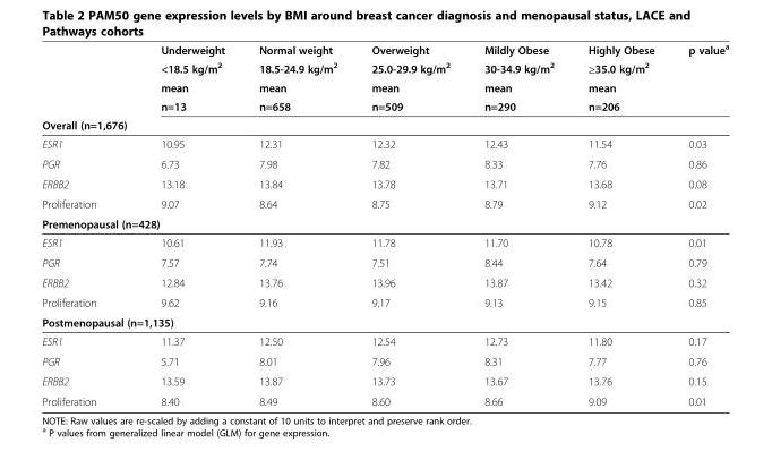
<table><thead><tr><td rowspan="4"></td><td rowspan="4">Underweight &lt;18.5 kg/m<sup>2</sup> mean n=13</td><td rowspan="4">Normal weight 18.5-24.9 kg/m<sup>2</sup> mean n=658</td><td rowspan="4">Overweight 25.0-29.9 kg/m<sup>2</sup> mean n=509</td><td rowspan="4">Mildly Obese 30-34.9 kg/m<sup>2</sup> mean n=290</td><td rowspan="4">Highly Obese ≥35.0 kg/m<sup>2</sup> mean n=206</td><td rowspan="4">p value<sup>a</sup></td></tr><tr></tr><tr></tr><tr></tr></thead><tbody><tr><td colspan="7">Overall (n=1,676)</td></tr><tr><td>ESR1</td><td>10.95</td><td>12.31</td><td>12.32</td><td>12.43</td><td>11.54</td><td>0.03</td></tr><tr><td>PGR</td><td>6.73</td><td>7.98</td><td>7.82</td><td>8.33</td><td>7.76</td><td>0.86</td></tr><tr><td>ERBB2</td><td>13.18</td><td>13.84</td><td>13.78</td><td>13.71</td><td>13.68</td><td>0.08</td></tr><tr><td>Proliferation</td><td>9.07</td><td>8.64</td><td>8.75</td><td>8.79</td><td>9.12</td><td>0.02</td></tr><tr><td colspan="7">Premenopausal (n=428)</td></tr><tr><td>ESR1</td><td>10.61</td><td>11.93</td><td>11.78</td><td>11.70</td><td>10.78</td><td>0.01</td></tr><tr><td>PGR</td><td>7.57</td><td>7.74</td><td>7.51</td><td>8.44</td><td>7.64</td><td>0.79</td></tr><tr><td>ERBB2</td><td>12.84</td><td>13.76</td><td>13.96</td><td>13.87</td><td>13.42</td><td>0.32</td></tr><tr><td>Proliferation</td><td>9.62</td><td>9.16</td><td>9.17</td><td>9.13</td><td>9.15</td><td>0.85</td></tr><tr><td colspan="7">Postmenopausal (n=1,135)</td></tr><tr><td>ESR1</td><td>11.37</td><td>12.50</td><td>12.54</td><td>12.73</td><td>11.80</td><td>0.17</td></tr><tr><td>PGR</td><td>5.71</td><td>8.01</td><td>7.96</td><td>8.31</td><td>7.77</td><td>0.76</td></tr><tr><td>ERBB2</td><td>13.59</td><td>13.87</td><td>13.73</td><td>13.67</td><td>13.76</td><td>0.15</td></tr><tr><td>Proliferation</td><td>8.40</td><td>8.49</td><td>8.60</td><td>8.66</td><td>9.09</td><td>0.01</td></tr></tbody></table>